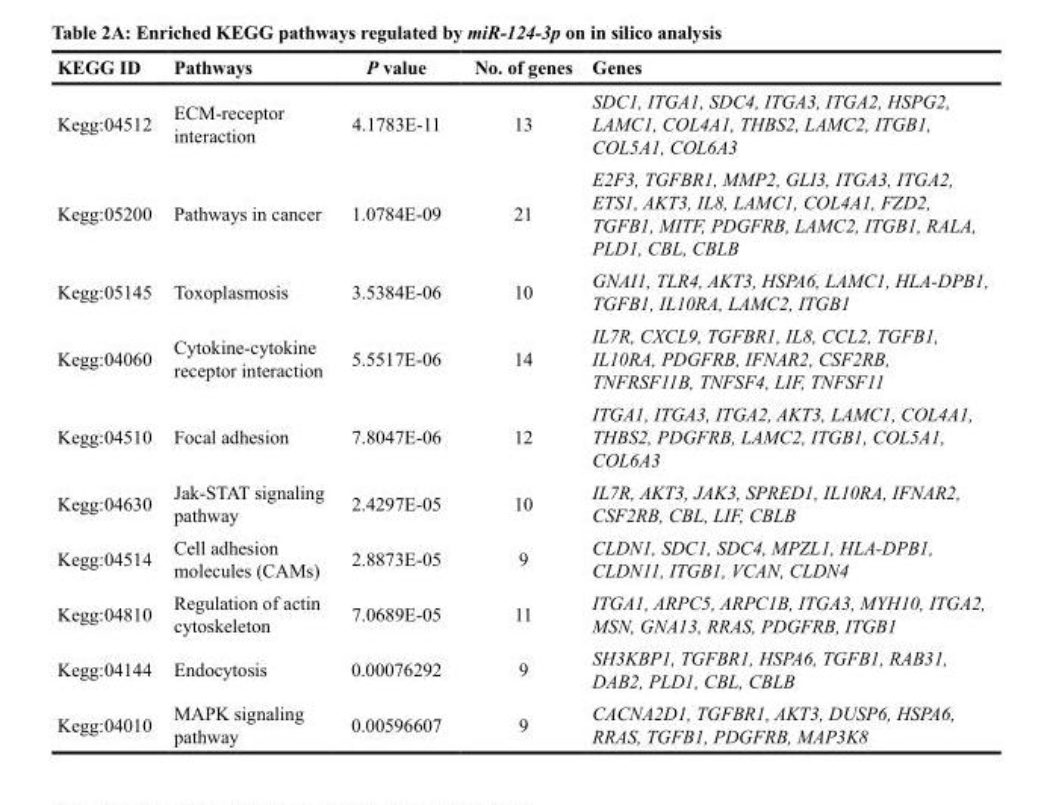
<table><thead><tr><td>KEGG ID</td><td>Pathways</td><td>P value</td><td>No. of genes</td><td>Genes</td></tr></thead><tbody><tr><td>Kegg:04512</td><td>ECM-receptor interaction</td><td>4.1783E-11</td><td>13</td><td>SDC1, ITGA1, SDC4, ITGA3, ITGA2, HSPG2, LAMC1, COL4A1, THBS2, LAMC2, ITGB1, COL5A1, COL6A3</td></tr><tr><td>Kegg:05200</td><td>Pathways in cancer</td><td>1.0784E-09</td><td>21</td><td>E2F3, TGFBR1, MMP2, GLI3, ITGA3, ITGA2, ETS1, AKT3, IL8, LAMC1, COL4A1, FZD2, TGFB1, MITF, PDGFRB, LAMC2, ITGB1, RALA, PLD1, CBL, CBLB</td></tr><tr><td>Kegg:05145</td><td>Toxoplasmosis</td><td>3.5384E-06</td><td>10</td><td>GNAI1, TLR4, AKT3, HSPA6, LAMC1, HLA-DPB1, TGFB1, IL10RA, LAMC2, ITGB1</td></tr><tr><td>Kegg:04060</td><td>Cytokine-cytokine receptor interaction</td><td>5.5517E-06</td><td>14</td><td>IL7R, CXCL9, TGFBR1, IL8, CCL2, TGFB1, IL10RA, PDGFRB, IFNAR2, CSF2RB, TNFRSF11B, TNFSF4, LIF, TNFSF11</td></tr><tr><td>Kegg:04510</td><td>Focal adhesion</td><td>7.8047E-06</td><td>12</td><td>ITGA1, ITGA3, ITGA2, AKT3, LAMC1, COL4A1, THBS2, PDGFRB, LAMC2, ITGB1, COL5A1, COL6A3</td></tr><tr><td>Kegg:04630</td><td>Jak-STAT signaling pathway</td><td>2.4297E-05</td><td>10</td><td>IL7R, AKT3, JAK3, SPRED1, IL10RA, IFNAR2, CSF2RB, CBL, LIF, CBLB</td></tr><tr><td>Kegg:04514</td><td>Cell adhesion molecules (CAMs)</td><td>2.8873E-05</td><td>9</td><td>CLDN1, SDC1, SDC4, MPZL1, HLA-DPB1, CLDN11, ITGB1, VCAN, CLDN4</td></tr><tr><td>Kegg:04810</td><td>Regulation of actin cytoskeleton</td><td>7.0689E-05</td><td>11</td><td>ITGA1, ARPC5, ARPC1B, ITGA3, MYH10, ITGA2, MSN, GNA13, RRAS, PDGFRB, ITGB1</td></tr><tr><td>Kegg:04144</td><td>Endocytosis</td><td>0.00076292</td><td>9</td><td>SH3KBP1, TGFBR1, HSPA6, TGFB1, RAB31, DAB2, PLD1, CBL, CBLB</td></tr><tr><td>Kegg:04010</td><td>MAPK signaling pathway</td><td>0.00596607</td><td>9</td><td>CACNA2D1, TGFBR1, AKT3, DUSP6, HSPA6, RRAS, TGFB1, PDGFRB, MAP3K8</td></tr></tbody></table>